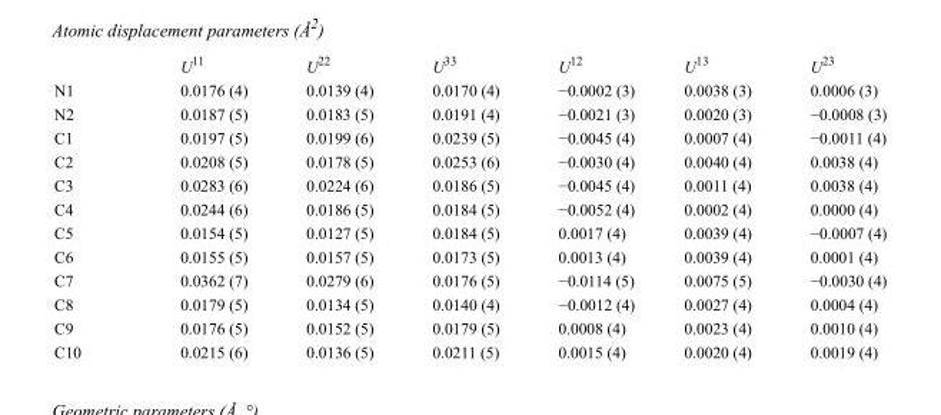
<table><thead><tr><td></td><td>U<sup>11</sup></td><td>U<sup>22</sup></td><td>U<sup>33</sup></td><td>U<sup>12</sup></td><td>U<sup>13</sup></td><td>U<sup>23</sup></td></tr></thead><tbody><tr><td>N1</td><td>0.0176 (4)</td><td>0.0139 (4)</td><td>0.0170 (4)</td><td>−0.0002 (3)</td><td>0.0038 (3)</td><td>0.0006 (3)</td></tr><tr><td>N2</td><td>0.0187 (5)</td><td>0.0183 (5)</td><td>0.0191 (4)</td><td>−0.0021 (3)</td><td>0.0020 (3)</td><td>−0.0008 (3)</td></tr><tr><td>C1</td><td>0.0197 (5)</td><td>0.0199 (6)</td><td>0.0239 (5)</td><td>−0.0045 (4)</td><td>0.0007 (4)</td><td>−0.0011 (4)</td></tr><tr><td>C2</td><td>0.0208 (5)</td><td>0.0178 (5)</td><td>0.0253 (6)</td><td>−0.0030 (4)</td><td>0.0040 (4)</td><td>0.0038 (4)</td></tr><tr><td>C3</td><td>0.0283 (6)</td><td>0.0224 (6)</td><td>0.0186 (5)</td><td>−0.0045 (4)</td><td>0.0011 (4)</td><td>0.0038 (4)</td></tr><tr><td>C4</td><td>0.0244 (6)</td><td>0.0186 (5)</td><td>0.0184 (5)</td><td>−0.0052 (4)</td><td>0.0002 (4)</td><td>0.0000 (4)</td></tr><tr><td>C5</td><td>0.0154 (5)</td><td>0.0127 (5)</td><td>0.0184 (5)</td><td>0.0017 (4)</td><td>0.0039 (4)</td><td>−0.0007 (4)</td></tr><tr><td>C6</td><td>0.0155 (5)</td><td>0.0157 (5)</td><td>0.0173 (5)</td><td>0.0013 (4)</td><td>0.0039 (4)</td><td>0.0001 (4)</td></tr><tr><td>C7</td><td>0.0362 (7)</td><td>0.0279 (6)</td><td>0.0176 (5)</td><td>−0.0114 (5)</td><td>0.0075 (5)</td><td>−0.0030 (4)</td></tr><tr><td>C8</td><td>0.0179 (5)</td><td>0.0134 (5)</td><td>0.0140 (4)</td><td>−0.0012 (4)</td><td>0.0027 (4)</td><td>0.0004 (4)</td></tr><tr><td>C9</td><td>0.0176 (5)</td><td>0.0152 (5)</td><td>0.0179 (5)</td><td>0.0008 (4)</td><td>0.0023 (4)</td><td>0.0010 (4)</td></tr><tr><td>C10</td><td>0.0215 (6)</td><td>0.0136 (5)</td><td>0.0211 (5)</td><td>0.0015 (4)</td><td>0.0020 (4)</td><td>0.0019 (4)</td></tr></tbody></table>